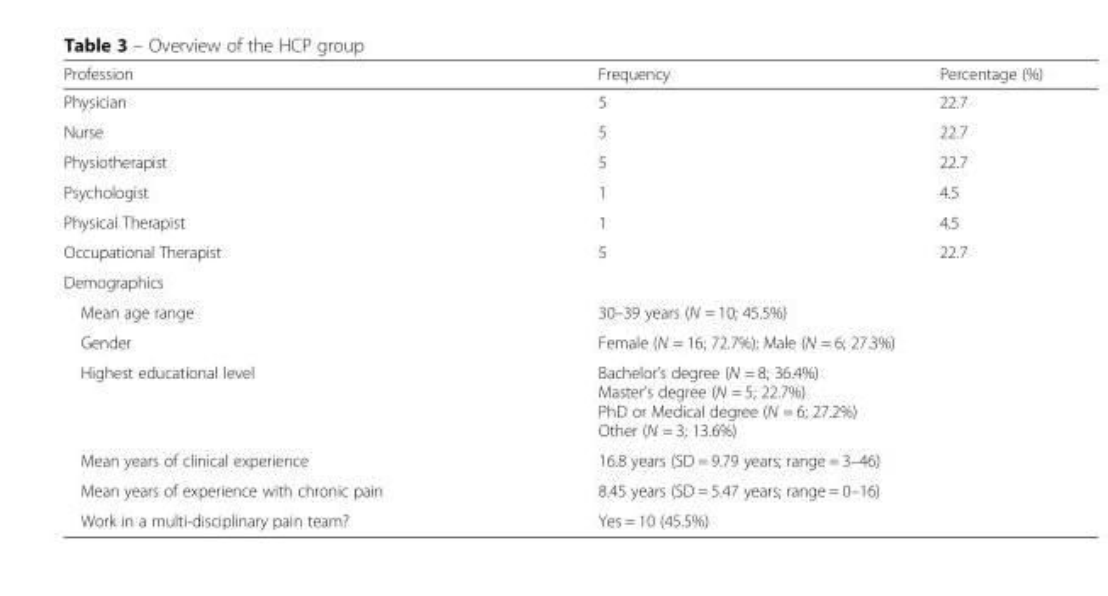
<table><thead><tr><td>Profession</td><td>Frequency</td><td>Percentage (%)</td></tr></thead><tbody><tr><td>Physician</td><td>5</td><td>22.7</td></tr><tr><td>Nurse</td><td>5</td><td>22.7</td></tr><tr><td>Physiotherapist</td><td>5</td><td>22.7</td></tr><tr><td>Psychologist</td><td>1</td><td>4.5</td></tr><tr><td>Physical Therapist</td><td>1</td><td>4.5</td></tr><tr><td>Occupational Therapist</td><td>5</td><td>22.7</td></tr><tr><td colspan="3">Demographics</td></tr><tr><td>Mean age range</td><td colspan="2">30–39 years (N = 10; 45.5%)</td></tr><tr><td>Gender</td><td colspan="2">Female (N = 16; 72.7%); Male (N = 6; 27.3%)</td></tr><tr><td>Highest educational level</td><td colspan="2">Bachelor’s degree (N = 8; 36.4%) Master’s degree (N = 5; 22.7%) PhD or Medical degree (N = 6; 27.2%) Other (N = 3; 13.6%)</td></tr><tr><td>Mean years of clinical experience</td><td colspan="2">16.8 years (SD = 9.79 years; range = 3–46)</td></tr><tr><td>Mean years of experience with chronic pain</td><td colspan="2">8.45 years (SD = 5.47 years; range = 0–16)</td></tr><tr><td>Work in a multi-disciplinary pain team?</td><td colspan="2">Yes = 10 (45.5%)</td></tr></tbody></table>